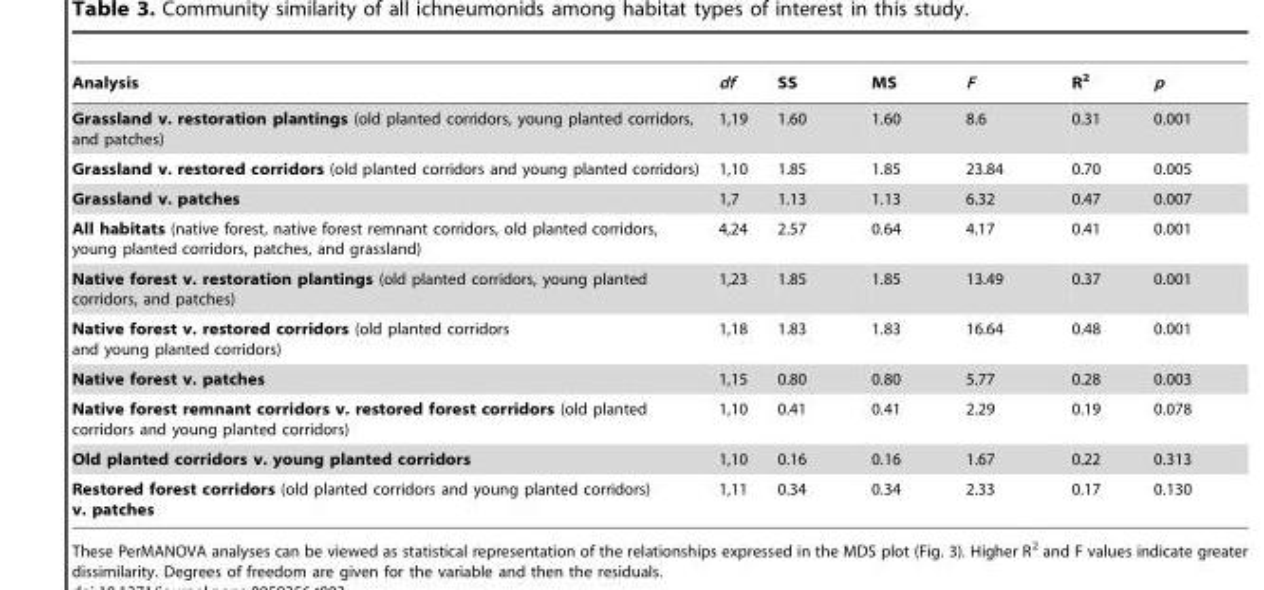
<table><thead><tr><td>Analysis</td><td>df</td><td>SS</td><td>MS</td><td>F</td><td>R<sup>2</sup></td><td>p</td></tr></thead><tbody><tr><td>Grassland v. restoration plantings (old planted corridors, young planted corridors, and patches)</td><td>1,19</td><td>1.60</td><td>1.60</td><td>8.6</td><td>0.31</td><td>0.001</td></tr><tr><td>Grassland v. restored corridors (old planted corridors and young planted corridors)</td><td>1,10</td><td>1.85</td><td>1.85</td><td>23.84</td><td>0.70</td><td>0.005</td></tr><tr><td>Grassland v. patches</td><td>1,7</td><td>1.13</td><td>1.13</td><td>6.32</td><td>0.47</td><td>0.007</td></tr><tr><td>All habitats (native forest, native forest remnant corridors, old planted corridors, young planted corridors, patches, and grassland)</td><td>4,24</td><td>2.57</td><td>0.64</td><td>4.17</td><td>0.41</td><td>0.001</td></tr><tr><td>Native forest v. restoration plantings (old planted corridors, young planted corridors, and patches)</td><td>1,23</td><td>1.85</td><td>1.85</td><td>13.49</td><td>0.37</td><td>0.001</td></tr><tr><td>Native forest v. restored corridors (old planted corridors and young planted corridors)</td><td>1,18</td><td>1.83</td><td>1.83</td><td>16.64</td><td>0.48</td><td>0.001</td></tr><tr><td>Native forest v. patches</td><td>1,15</td><td>0.80</td><td>0.80</td><td>5.77</td><td>0.28</td><td>0.003</td></tr><tr><td>Native forest remnant corridors v. restored forest corridors (old planted corridors and young planted corridors)</td><td>1,10</td><td>0.41</td><td>0.41</td><td>2.29</td><td>0.19</td><td>0.078</td></tr><tr><td>Old planted corridors v. young planted corridors</td><td>1,10</td><td>0.16</td><td>0.16</td><td>1.67</td><td>0.22</td><td>0.313</td></tr><tr><td>Restored forest corridors (old planted corridors and young planted corridors) v. patches</td><td>1,11</td><td>0.34</td><td>0.34</td><td>2.33</td><td>0.17</td><td>0.130</td></tr></tbody></table>